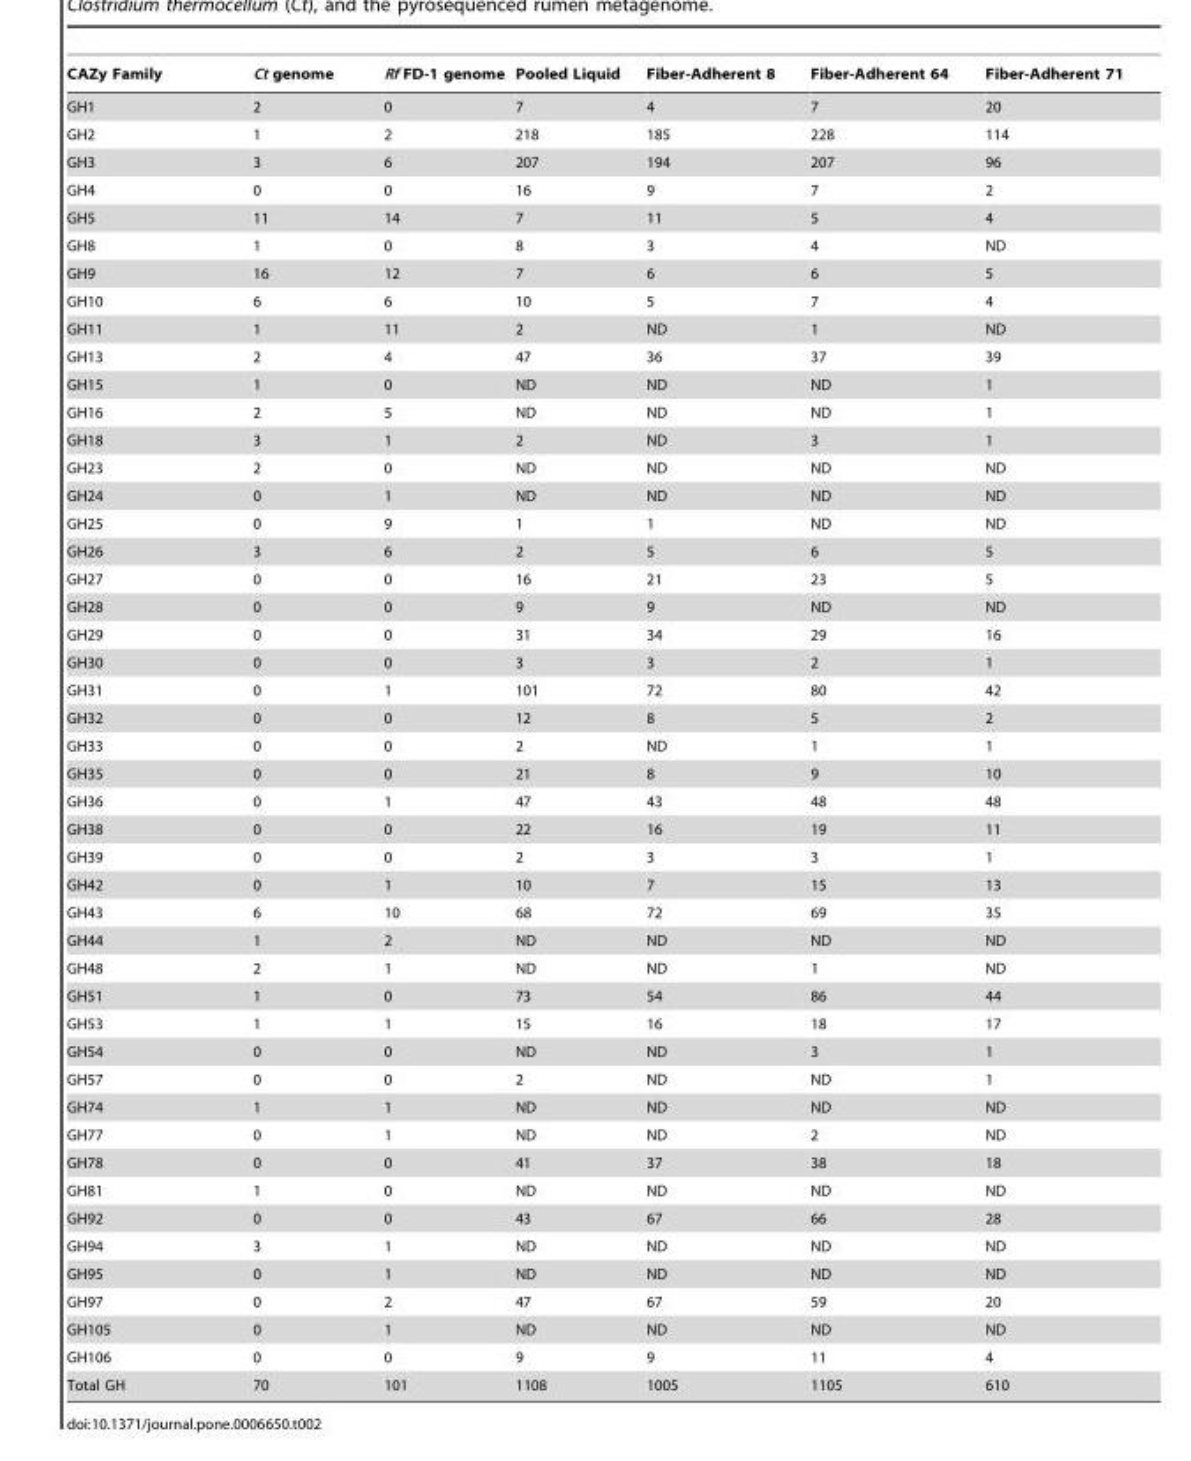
<table><thead><tr><td>CAZy Family</td><td>Ct genome</td><td>Rf FD-1 genome</td><td>Pooled Liquid</td><td>Fiber-Adherent 8</td><td>Fiber-Adherent 64</td><td>Fiber-Adherent 71</td></tr></thead><tbody><tr><td>GH1</td><td>2</td><td>0</td><td>7</td><td>4</td><td>7</td><td>20</td></tr><tr><td>GH2</td><td>1</td><td>2</td><td>218</td><td>185</td><td>228</td><td>114</td></tr><tr><td>GH3</td><td>3</td><td>6</td><td>207</td><td>194</td><td>207</td><td>96</td></tr><tr><td>GH4</td><td>0</td><td>0</td><td>16</td><td>9</td><td>7</td><td>2</td></tr><tr><td>GH5</td><td>11</td><td>14</td><td>7</td><td>11</td><td>5</td><td>4</td></tr><tr><td>GH8</td><td>1</td><td>0</td><td>8</td><td>3</td><td>4</td><td>ND</td></tr><tr><td>GH9</td><td>16</td><td>12</td><td>7</td><td>6</td><td>6</td><td>5</td></tr><tr><td>GH10</td><td>6</td><td>6</td><td>10</td><td>5</td><td>7</td><td>4</td></tr><tr><td>GH11</td><td>1</td><td>11</td><td>2</td><td>ND</td><td>1</td><td>ND</td></tr><tr><td>GH13</td><td>2</td><td>4</td><td>47</td><td>36</td><td>37</td><td>39</td></tr><tr><td>GH15</td><td>1</td><td>0</td><td>ND</td><td>ND</td><td>ND</td><td>1</td></tr><tr><td>GH16</td><td>2</td><td>5</td><td>ND</td><td>ND</td><td>ND</td><td>1</td></tr><tr><td>GH18</td><td>3</td><td>1</td><td>2</td><td>ND</td><td>3</td><td>1</td></tr><tr><td>GH23</td><td>2</td><td>0</td><td>ND</td><td>ND</td><td>ND</td><td>ND</td></tr><tr><td>GH24</td><td>0</td><td>1</td><td>ND</td><td>ND</td><td>ND</td><td>ND</td></tr><tr><td>GH25</td><td>0</td><td>9</td><td>1</td><td>1</td><td>ND</td><td>ND</td></tr><tr><td>GH26</td><td>3</td><td>6</td><td>2</td><td>5</td><td>6</td><td>5</td></tr><tr><td>GH27</td><td>0</td><td>0</td><td>16</td><td>21</td><td>23</td><td>5</td></tr><tr><td>GH28</td><td>0</td><td>0</td><td>9</td><td>9</td><td>ND</td><td>ND</td></tr><tr><td>GH29</td><td>0</td><td>0</td><td>31</td><td>34</td><td>29</td><td>16</td></tr><tr><td>GH30</td><td>0</td><td>0</td><td>3</td><td>3</td><td>2</td><td>1</td></tr><tr><td>GH31</td><td>0</td><td>1</td><td>101</td><td>72</td><td>80</td><td>42</td></tr><tr><td>GH32</td><td>0</td><td>0</td><td>12</td><td>8</td><td>5</td><td>2</td></tr><tr><td>GH33</td><td>0</td><td>0</td><td>2</td><td>ND</td><td>1</td><td>1</td></tr><tr><td>GH35</td><td>0</td><td>0</td><td>21</td><td>8</td><td>9</td><td>10</td></tr><tr><td>GH36</td><td>0</td><td>1</td><td>47</td><td>43</td><td>48</td><td>48</td></tr><tr><td>GH38</td><td>0</td><td>0</td><td>22</td><td>16</td><td>19</td><td>11</td></tr><tr><td>GH39</td><td>0</td><td>0</td><td>2</td><td>3</td><td>3</td><td>1</td></tr><tr><td>GH42</td><td>0</td><td>1</td><td>10</td><td>7</td><td>15</td><td>13</td></tr><tr><td>GH43</td><td>6</td><td>10</td><td>68</td><td>72</td><td>69</td><td>35</td></tr><tr><td>GH44</td><td>1</td><td>2</td><td>ND</td><td>ND</td><td>ND</td><td>ND</td></tr><tr><td>GH48</td><td>2</td><td>1</td><td>ND</td><td>ND</td><td>1</td><td>ND</td></tr><tr><td>GH51</td><td>1</td><td>0</td><td>73</td><td>54</td><td>86</td><td>44</td></tr><tr><td>GH53</td><td>1</td><td>1</td><td>15</td><td>16</td><td>18</td><td>17</td></tr><tr><td>GH54</td><td>0</td><td>0</td><td>ND</td><td>ND</td><td>3</td><td>1</td></tr><tr><td>GH57</td><td>0</td><td>0</td><td>2</td><td>ND</td><td>ND</td><td>1</td></tr><tr><td>GH74</td><td>1</td><td>1</td><td>ND</td><td>ND</td><td>ND</td><td>ND</td></tr><tr><td>GH77</td><td>0</td><td>1</td><td>ND</td><td>ND</td><td>2</td><td>ND</td></tr><tr><td>GH78</td><td>0</td><td>0</td><td>41</td><td>37</td><td>38</td><td>18</td></tr><tr><td>GH81</td><td>1</td><td>0</td><td>ND</td><td>ND</td><td>ND</td><td>ND</td></tr><tr><td>GH92</td><td>0</td><td>0</td><td>43</td><td>67</td><td>66</td><td>28</td></tr><tr><td>GH94</td><td>3</td><td>1</td><td>ND</td><td>ND</td><td>ND</td><td>ND</td></tr><tr><td>GH95</td><td>0</td><td>1</td><td>ND</td><td>ND</td><td>ND</td><td>ND</td></tr><tr><td>GH97</td><td>0</td><td>2</td><td>47</td><td>67</td><td>59</td><td>20</td></tr><tr><td>GH105</td><td>0</td><td>1</td><td>ND</td><td>ND</td><td>ND</td><td>ND</td></tr><tr><td>GH106</td><td>0</td><td>0</td><td>9</td><td>9</td><td>11</td><td>4</td></tr><tr><td>Total GH</td><td>70</td><td>101</td><td>1108</td><td>1005</td><td>1105</td><td>610</td></tr></tbody></table>